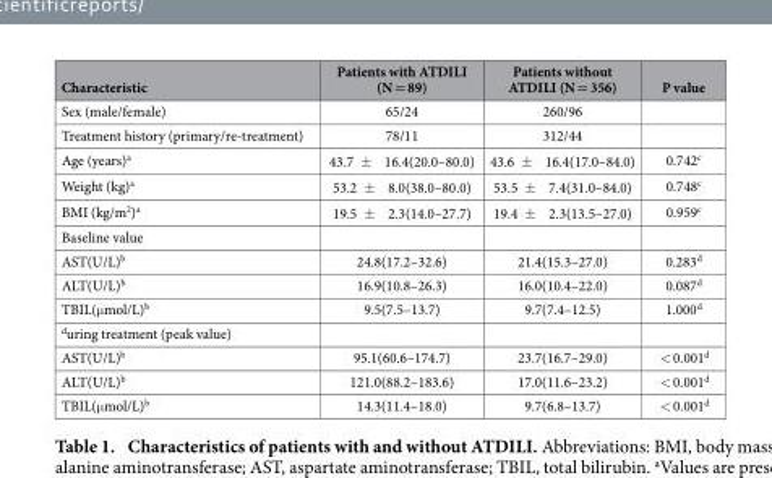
<table><thead><tr><td>Characteristic</td><td>Patients with ATDILI (N = 89)</td><td>Patients without ATDILI (N = 356)</td><td>P value</td></tr></thead><tbody><tr><td>Sex (male/female)</td><td>65/24</td><td>260/96</td><td></td></tr><tr><td>Treatment history (primary/re-treatment)</td><td>78/11</td><td>312/44</td><td></td></tr><tr><td>Age (years)<sup>a</sup></td><td>43.7 ± 16.4(20.0–80.0)</td><td>43.6 ± 16.4(17.0–84.0)</td><td>0.742<sup>c</sup></td></tr><tr><td>Weight (kg)<sup>a</sup></td><td>53.2 ± 8.0(38.0–80.0)</td><td>53.5 ± 7.4(31.0–84.0)</td><td>0.748<sup>c</sup></td></tr><tr><td>BMI (kg/m<sup>2</sup>)<sup>a</sup></td><td>19.5 ± 2.3(14.0–27.7)</td><td>19.4 ± 2.3(13.5–27.0)</td><td>0.959<sup>c</sup></td></tr><tr><td colspan="4">Baseline value</td></tr><tr><td>AST(U/L)<sup>b</sup></td><td>24.8(17.2–32.6)</td><td>21.4(15.3–27.0)</td><td>0.283<sup>d</sup></td></tr><tr><td>ALT(U/L)<sup>b</sup></td><td>16.9(10.8–26.3)</td><td>16.0(10.4–22.0)</td><td>0.087<sup>d</sup></td></tr><tr><td>TBIL(μ mol/L)<sup>b</sup></td><td>9.5(7.5–13.7)</td><td>9.7(7.4–12.5)</td><td>1.000<sup>d</sup></td></tr><tr><td colspan="4">during treatment (peak value)</td></tr><tr><td>AST(U/L)<sup>b</sup></td><td>95.1(60.6–174.7)</td><td>23.7(16.7–29.0)</td><td>&lt; 0.001<sup>d</sup></td></tr><tr><td>ALT(U/L)<sup>b</sup></td><td>121.0(88.2–183.6)</td><td>17.0(11.6–23.2)</td><td>&lt; 0.001<sup>d</sup></td></tr><tr><td>TBIL(μ mol/L)<sup>b</sup></td><td>14.3(11.4–18.0)</td><td>9.7(6.8–13.7)</td><td>&lt; 0.001<sup>d</sup></td></tr></tbody></table>